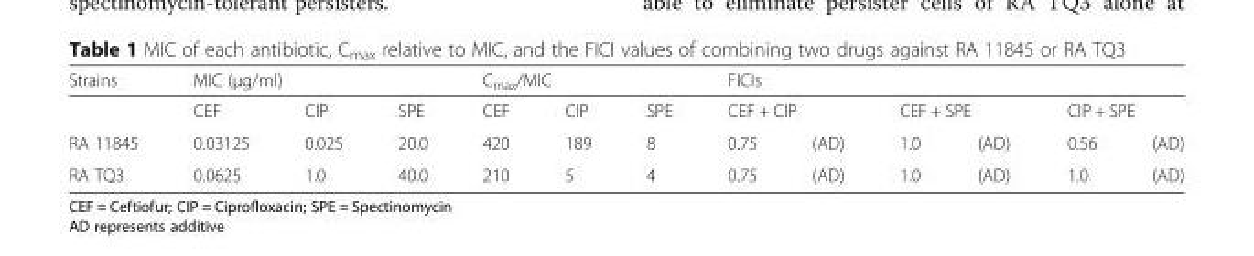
<table><thead><tr><td rowspan="3">Strains RA 11845</td><td colspan="3">MIC (μg/ml)</td><td colspan="3">C<sub>max</sub>/MIC</td><td colspan="6">FICIs</td></tr><tr><td rowspan="2">CEF 0.03125</td><td rowspan="2">CIP 0.025</td><td rowspan="2">SPE 20.0</td><td rowspan="2">CEF 420</td><td rowspan="2">CIP 189</td><td rowspan="2">SPE 8</td><td colspan="2">CEF + CIP</td><td colspan="2">CEF + SPE</td><td colspan="2">CIP + SPE</td></tr><tr><td>0.75</td><td>(AD)</td><td>1.0</td><td>(AD)</td><td>0.56</td><td>(AD)</td></tr></thead><tbody><tr><td>RA TQ3</td><td>0.0625</td><td>1.0</td><td>40.0</td><td>210</td><td>5</td><td>4</td><td>0.75</td><td>(AD)</td><td>1.0</td><td>(AD)</td><td>1.0</td><td>(AD)</td></tr></tbody></table>